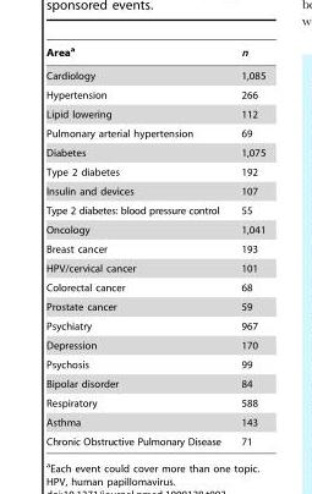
<table><thead><tr><td>Area<sup>a</sup></td><td>n</td></tr></thead><tbody><tr><td>Cardiology</td><td>1,085</td></tr><tr><td>Hypertension</td><td>266</td></tr><tr><td>Lipid lowering</td><td>112</td></tr><tr><td>Pulmonary arterial hypertension</td><td>69</td></tr><tr><td>Diabetes</td><td>1,075</td></tr><tr><td>Type 2 diabetes</td><td>192</td></tr><tr><td>Insulin and devices</td><td>107</td></tr><tr><td>Type 2 diabetes: blood pressure control</td><td>55</td></tr><tr><td>Oncology</td><td>1,041</td></tr><tr><td>Breast cancer</td><td>193</td></tr><tr><td>HPV/cervical cancer</td><td>101</td></tr><tr><td>Colorectal cancer</td><td>68</td></tr><tr><td>Prostate cancer</td><td>59</td></tr><tr><td>Psychiatry</td><td>967</td></tr><tr><td>Depression</td><td>170</td></tr><tr><td>Psychosis</td><td>99</td></tr><tr><td>Bipolar disorder</td><td>84</td></tr><tr><td>Respiratory</td><td>588</td></tr><tr><td>Asthma</td><td>143</td></tr><tr><td>Chronic Obstructive Pulmonary Disease</td><td>71</td></tr></tbody></table>